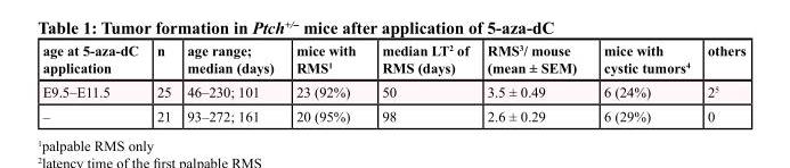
<table><thead><tr><td>age at 5-aza-dC application</td><td>n</td><td>age range; median (days)</td><td>mice with RMS<sup>1</sup></td><td>median LT<sup>2</sup> of RMS (days)</td><td>RMS<sup>3</sup>/ mouse (mean ± SEM)</td><td>mice with cystic tumors<sup>4</sup></td><td>others</td></tr></thead><tbody><tr><td>E9.5–E11.5</td><td>25</td><td>46–230; 101</td><td>23 (92%)</td><td>50</td><td>3.5 ± 0.49</td><td>6 (24%)</td><td>2<sup>5</sup></td></tr><tr><td>–</td><td>21</td><td>93–272; 161</td><td>20 (95%)</td><td>98</td><td>2.6 ± 0.29</td><td>6 (29%)</td><td>0</td></tr></tbody></table>